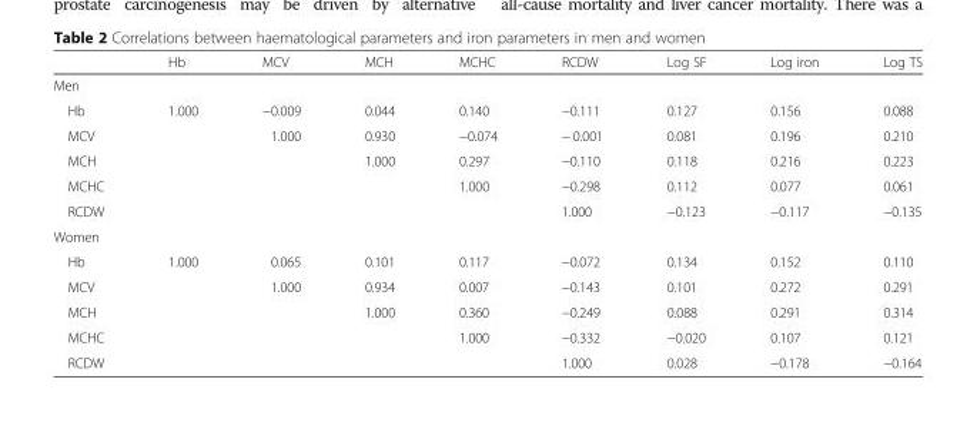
<table><thead><tr><td></td><td>Hb</td><td>MCV</td><td>MCH</td><td>MCHC</td><td>RCDW</td><td>Log SF</td><td>Log iron</td><td>Log TS</td></tr></thead><tbody><tr><td colspan="9">Men</td></tr><tr><td>Hb</td><td>1.000</td><td>−0.009</td><td>0.044</td><td>0.140</td><td>−0.111</td><td>0.127</td><td>0.156</td><td>0.088</td></tr><tr><td>MCV</td><td></td><td>1.000</td><td>0.930</td><td>−0.074</td><td>− 0.001</td><td>0.081</td><td>0.196</td><td>0.210</td></tr><tr><td>MCH</td><td></td><td></td><td>1.000</td><td>0.297</td><td>−0.110</td><td>0.118</td><td>0.216</td><td>0.223</td></tr><tr><td>MCHC</td><td></td><td></td><td></td><td>1.000</td><td>−0.298</td><td>0.112</td><td>0.077</td><td>0.061</td></tr><tr><td>RCDW</td><td></td><td></td><td></td><td></td><td>1.000</td><td>−0.123</td><td>−0.117</td><td>−0.135</td></tr><tr><td colspan="9">Women</td></tr><tr><td>Hb</td><td>1.000</td><td>0.065</td><td>0.101</td><td>0.117</td><td>−0.072</td><td>0.134</td><td>0.152</td><td>0.110</td></tr><tr><td>MCV</td><td></td><td>1.000</td><td>0.934</td><td>0.007</td><td>−0.143</td><td>0.101</td><td>0.272</td><td>0.291</td></tr><tr><td>MCH</td><td></td><td></td><td>1.000</td><td>0.360</td><td>−0.249</td><td>0.088</td><td>0.291</td><td>0.314</td></tr><tr><td>MCHC</td><td></td><td></td><td></td><td>1.000</td><td>−0.332</td><td>−0.020</td><td>0.107</td><td>0.121</td></tr><tr><td>RCDW</td><td></td><td></td><td></td><td></td><td>1.000</td><td>0.028</td><td>−0.178</td><td>−0.164</td></tr></tbody></table>